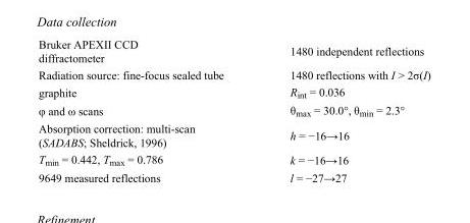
<table><tbody><tr><td>Bruker APEXII CCD diffractometer</td><td>1480 independent reflections</td></tr><tr><td>Radiation source: fine-focus sealed tube</td><td>1480 reflections with I &gt; 2σ(I)</td></tr><tr><td>graphite</td><td>R<sub>int</sub> = 0.036</td></tr><tr><td>φ and ω scans</td><td>θ<sub>max</sub> = 30.0°, θ<sub>min</sub> = 2.3°</td></tr><tr><td>Absorption correction: multi-scan (SADABS; Sheldrick, 1996)</td><td>h = −16→16</td></tr><tr><td>T<sub>min</sub> = 0.442, T<sub>max</sub> = 0.786</td><td>k = −16→16</td></tr><tr><td>9649 measured reflections</td><td>l = −27→27</td></tr></tbody></table>